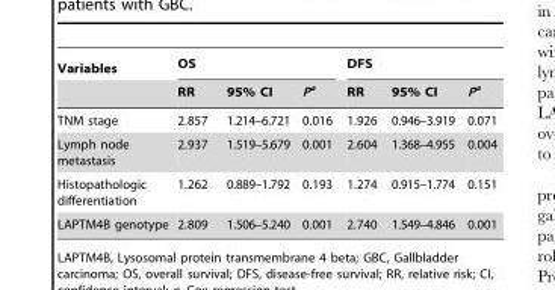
<table><thead><tr><td rowspan="2">Variables</td><td colspan="3">OS</td><td colspan="3">DFS</td></tr><tr><td>RR</td><td>95% CI</td><td>P<sup>a</sup></td><td>RR</td><td>95% CI</td><td>P<sup>a</sup></td></tr></thead><tbody><tr><td>TNM stage</td><td>2.857</td><td>1.214–6.721</td><td>0.016</td><td>1.926</td><td>0.946–3.919</td><td>0.071</td></tr><tr><td>Lymph node metastasis</td><td>2.937</td><td>1.519–5.679</td><td>0.001</td><td>2.604</td><td>1.368–4.955</td><td>0.004</td></tr><tr><td>Histopathologic differentiation</td><td>1.262</td><td>0.889–1.792</td><td>0.193</td><td>1.274</td><td>0.915–1.774</td><td>0.151</td></tr><tr><td>LAPTM4B genotype</td><td>2.809</td><td>1.506–5.240</td><td>0.001</td><td>2.740</td><td>1.549–4.846</td><td>0.001</td></tr></tbody></table>